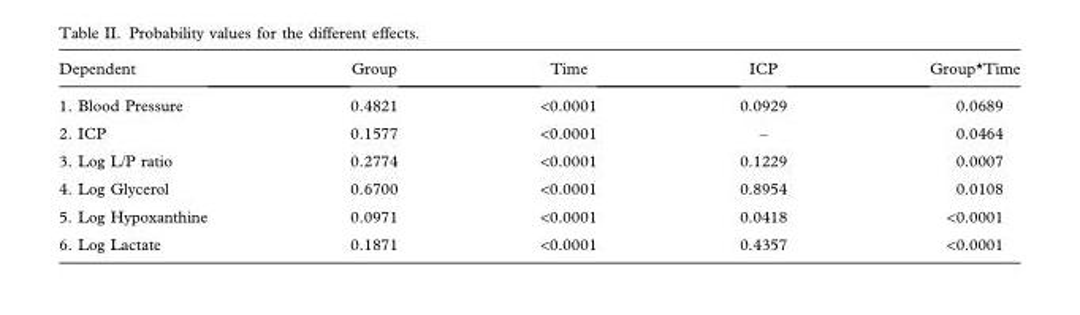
<table><thead><tr><td>Dependent</td><td>Group</td><td>Time</td><td>ICP</td><td>Group*Time</td></tr></thead><tbody><tr><td>1. Blood Pressure</td><td>0.4821</td><td>&lt;0.0001</td><td>0.0929</td><td>0.0689</td></tr><tr><td>2. ICP</td><td>0.1577</td><td>&lt;0.0001</td><td>–</td><td>0.0464</td></tr><tr><td>3. Log L/P ratio</td><td>0.2774</td><td>&lt;0.0001</td><td>0.1229</td><td>0.0007</td></tr><tr><td>4. Log Glycerol</td><td>0.6700</td><td>&lt;0.0001</td><td>0.8954</td><td>0.0108</td></tr><tr><td>5. Log Hypoxanthine</td><td>0.0971</td><td>&lt;0.0001</td><td>0.0418</td><td>&lt;0.0001</td></tr><tr><td>6. Log Lactate</td><td>0.1871</td><td>&lt;0.0001</td><td>0.4357</td><td>&lt;0.0001</td></tr></tbody></table>